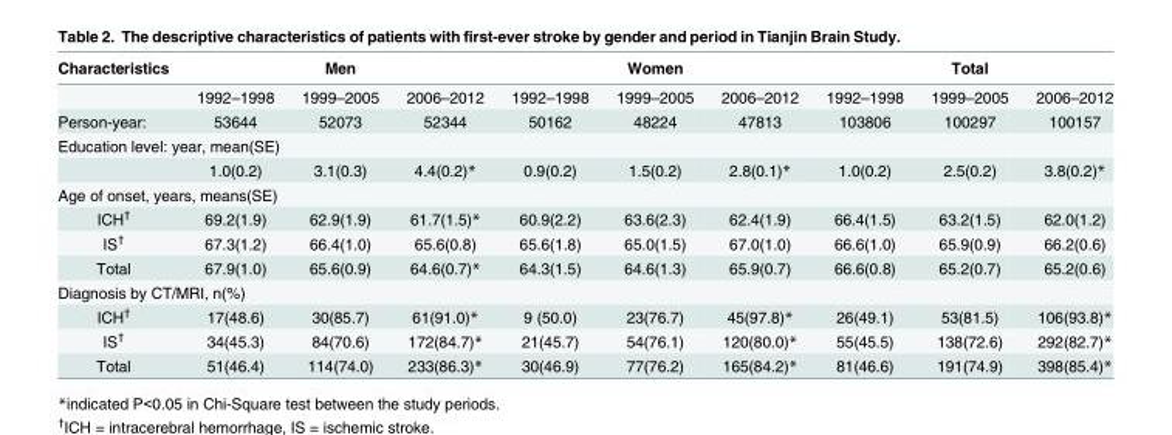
<table><thead><tr><td rowspan="2">Characteristics</td><td colspan="3">Men</td><td colspan="3">Women</td><td colspan="3">Total</td></tr><tr><td>1992–1998</td><td>1999–2005</td><td>2006–2012</td><td>1992–1998</td><td>1999–2005</td><td>2006–2012</td><td>1992–1998</td><td>1999–2005</td><td>2006–2012</td></tr></thead><tbody><tr><td>Person-year:</td><td>53644</td><td>52073</td><td>52344</td><td>50162</td><td>48224</td><td>47813</td><td>103806</td><td>100297</td><td>100157</td></tr><tr><td colspan="10">Education level: year, mean(SE)</td></tr><tr><td></td><td>1.0(0.2)</td><td>3.1(0.3)</td><td>4.4(0.2)*</td><td>0.9(0.2)</td><td>1.5(0.2)</td><td>2.8(0.1)*</td><td>1.0(0.2)</td><td>2.5(0.2)</td><td>3.8(0.2)*</td></tr><tr><td colspan="10">Age of onset, years, means(SE)</td></tr><tr><td>ICH<sup>†</sup></td><td>69.2(1.9)</td><td>62.9(1.9)</td><td>61.7(1.5)*</td><td>60.9(2.2)</td><td>63.6(2.3)</td><td>62.4(1.9)</td><td>66.4(1.5)</td><td>63.2(1.5)</td><td>62.0(1.2)</td></tr><tr><td>IS<sup>†</sup></td><td>67.3(1.2)</td><td>66.4(1.0)</td><td>65.6(0.8)</td><td>65.6(1.8)</td><td>65.0(1.5)</td><td>67.0(1.0)</td><td>66.6(1.0)</td><td>65.9(0.9)</td><td>66.2(0.6)</td></tr><tr><td>Total</td><td>67.9(1.0)</td><td>65.6(0.9)</td><td>64.6(0.7)*</td><td>64.3(1.5)</td><td>64.6(1.3)</td><td>65.9(0.7)</td><td>66.6(0.8)</td><td>65.2(0.7)</td><td>65.2(0.6)</td></tr><tr><td colspan="10">Diagnosis by CT/MRI, n(%)</td></tr><tr><td>ICH<sup>†</sup></td><td>17(48.6)</td><td>30(85.7)</td><td>61(91.0)*</td><td>9 (50.0)</td><td>23(76.7)</td><td>45(97.8)*</td><td>26(49.1)</td><td>53(81.5)</td><td>106(93.8)*</td></tr><tr><td>IS<sup>†</sup></td><td>34(45.3)</td><td>84(70.6)</td><td>172(84.7)*</td><td>21(45.7)</td><td>54(76.1)</td><td>120(80.0)*</td><td>55(45.5)</td><td>138(72.6)</td><td>292(82.7)*</td></tr><tr><td>Total</td><td>51(46.4)</td><td>114(74.0)</td><td>233(86.3)*</td><td>30(46.9)</td><td>77(76.2)</td><td>165(84.2)*</td><td>81(46.6)</td><td>191(74.9)</td><td>398(85.4)*</td></tr></tbody></table>